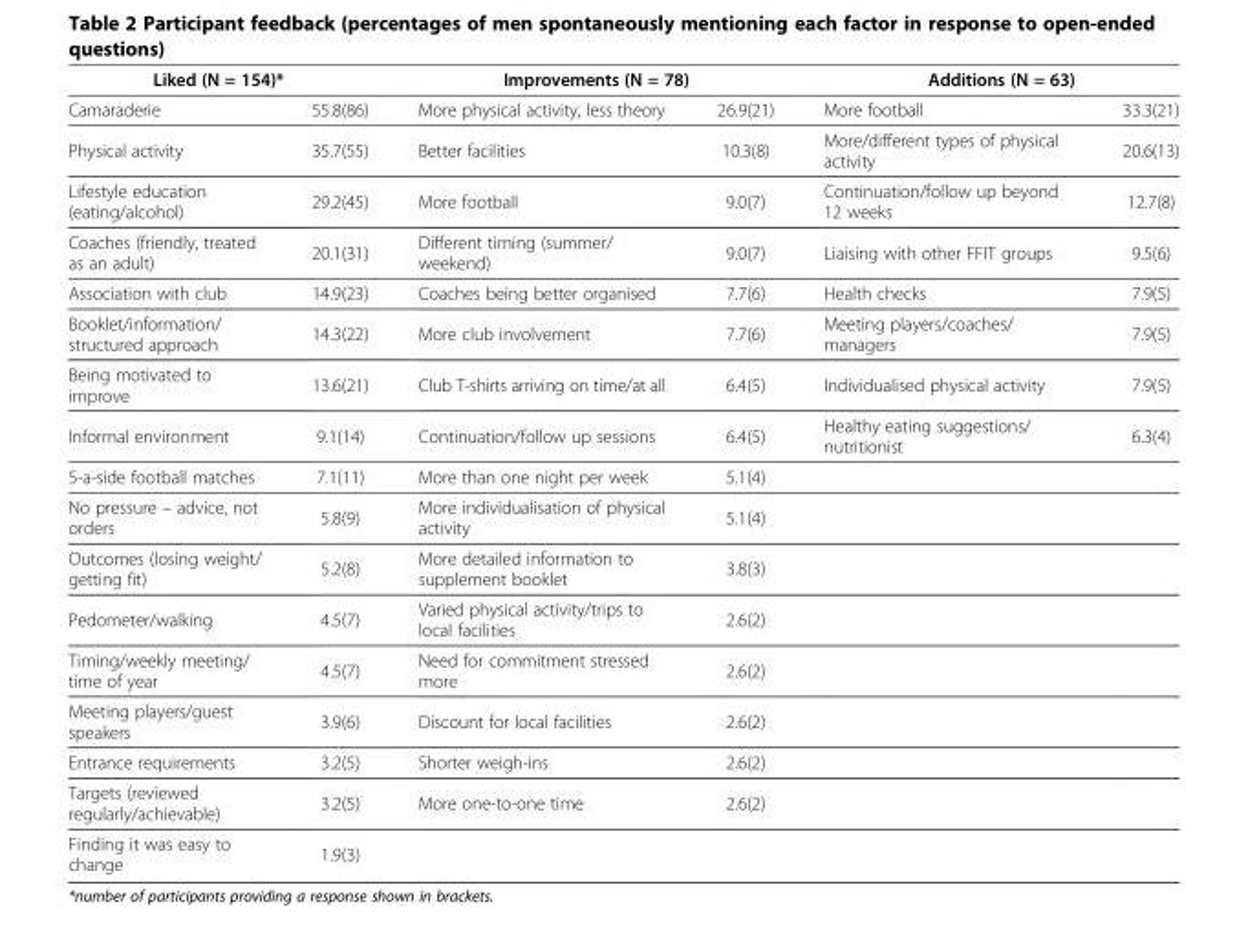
<table><thead><tr><td colspan="2">Liked (N = 154)*</td><td colspan="2">Improvements (N = 78)</td><td colspan="2">Additions (N = 63)</td></tr><tr><td>Camaraderie</td><td>55.8(86)</td><td>More physical activity, less theory</td><td>26.9(21)</td><td>More football</td><td>33.3(21)</td></tr></thead><tbody><tr><td>Physical activity</td><td>35.7(55)</td><td>Better facilities</td><td>10.3(8)</td><td>More/different types of physical activity</td><td>20.6(13)</td></tr><tr><td>Lifestyle education (eating/alcohol)</td><td>29.2(45)</td><td>More football</td><td>9.0(7)</td><td>Continuation/follow up beyond 12 weeks</td><td>12.7(8)</td></tr><tr><td>Coaches (friendly, treated as an adult)</td><td>20.1(31)</td><td>Different timing (summer/ weekend)</td><td>9.0(7)</td><td>Liaising with other FFIT groups</td><td>9.5(6)</td></tr><tr><td>Association with club</td><td>14.9(23)</td><td>Coaches being better organised</td><td>7.7(6)</td><td>Health checks</td><td>7.9(5)</td></tr><tr><td>Booklet/information/ structured approach</td><td>14.3(22)</td><td>More club involvement</td><td>7.7(6)</td><td>Meeting players/coaches/ managers</td><td>7.9(5)</td></tr><tr><td>Being motivated to improve</td><td>13.6(21)</td><td>Club T-shirts arriving on time/at all</td><td>6.4(5)</td><td>Individualised physical activity</td><td>7.9(5)</td></tr><tr><td>Informal environment</td><td>9.1(14)</td><td>Continuation/follow up sessions</td><td>6.4(5)</td><td>Healthy eating suggestions/ nutritionist</td><td>6.3(4)</td></tr><tr><td>5-a-side football matches</td><td>7.1(11)</td><td>More than one night per week</td><td>5.1(4)</td><td></td><td></td></tr><tr><td>No pressure – advice, not orders</td><td>5.8(9)</td><td>More individualisation of physical activity</td><td>5.1(4)</td><td></td><td></td></tr><tr><td>Outcomes (losing weight/ getting fit)</td><td>5.2(8)</td><td>More detailed information to supplement booklet</td><td>3.8(3)</td><td></td><td></td></tr><tr><td>Pedometer/walking</td><td>4.5(7)</td><td>Varied physical activity/trips to local facilities</td><td>2.6(2)</td><td></td><td></td></tr><tr><td>Timing/weekly meeting/ time of year</td><td>4.5(7)</td><td>Need for commitment stressed more</td><td>2.6(2)</td><td></td><td></td></tr><tr><td>Meeting players/guest speakers</td><td>3.9(6)</td><td>Discount for local facilities</td><td>2.6(2)</td><td></td><td></td></tr><tr><td>Entrance requirements</td><td>3.2(5)</td><td>Shorter weigh-ins</td><td>2.6(2)</td><td></td><td></td></tr><tr><td>Targets (reviewed regularly/achievable)</td><td>3.2(5)</td><td>More one-to-one time</td><td>2.6(2)</td><td></td><td></td></tr><tr><td>Finding it was easy to change</td><td>1.9(3)</td><td></td><td></td><td></td><td></td></tr></tbody></table>